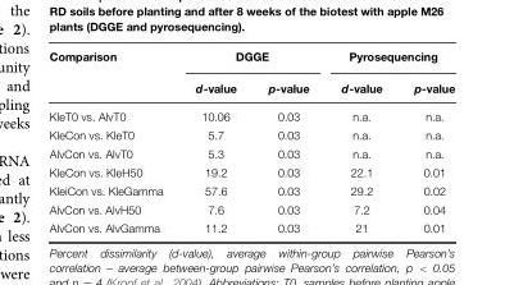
<table><thead><tr><td rowspan="2">Comparison</td><td colspan="2">DGGE</td><td colspan="2">Pyrosequencing</td></tr><tr><td>d-value</td><td>p-value</td><td>d-value</td><td>p-value</td></tr></thead><tbody><tr><td>KleT0 vs. AlvT0</td><td>10.06</td><td>0.03</td><td>n.a.</td><td>n.a.</td></tr><tr><td>KleCon vs. KleT0</td><td>5.7</td><td>0.03</td><td>n.a.</td><td>n.a.</td></tr><tr><td>AlvCon vs. AlvT0</td><td>5.3</td><td>0.03</td><td>n.a.</td><td>n.a.</td></tr><tr><td>KleCon vs. KleH50</td><td>19.2</td><td>0.03</td><td>22.1</td><td>0.01</td></tr><tr><td>KleiCon vs. KleGamma</td><td>57.6</td><td>0.03</td><td>29.2</td><td>0.02</td></tr><tr><td>AlvCon vs. AlvH50</td><td>7.6</td><td>0.03</td><td>7.2</td><td>0.04</td></tr><tr><td>AlvCon vs. AlvGamma</td><td>11.2</td><td>0.03</td><td>21</td><td>0.01</td></tr></tbody></table>